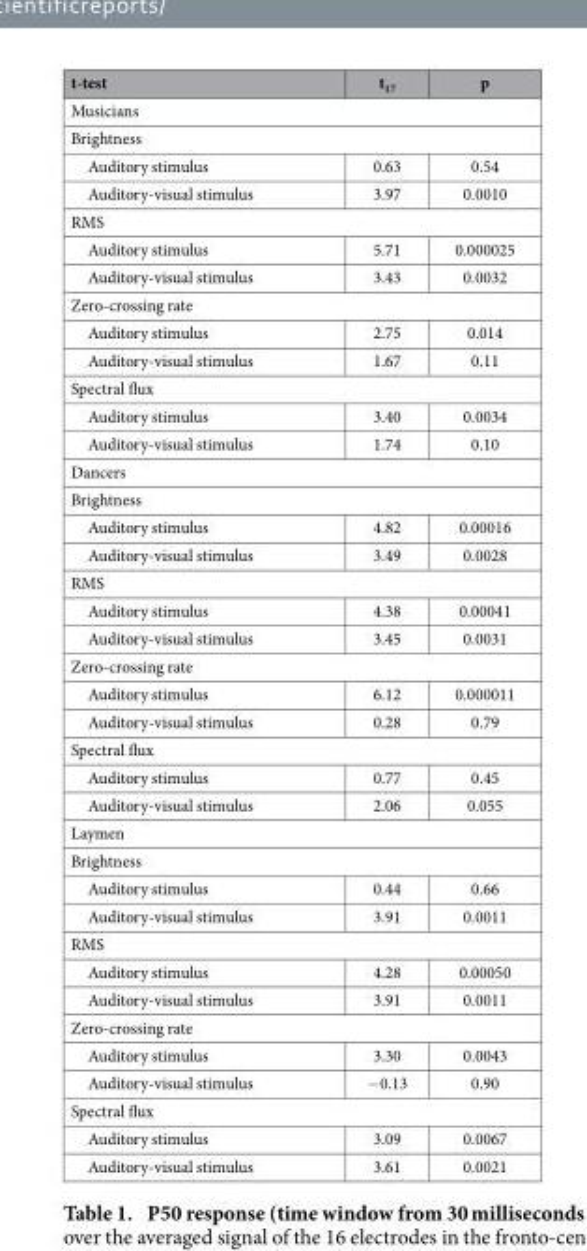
<table><thead><tr><td>t-test</td><td>t<sub>17</sub></td><td>p</td></tr></thead><tbody><tr><td colspan="3">Musicians</td></tr><tr><td colspan="3">Brightness</td></tr><tr><td>Auditory stimulus</td><td>0.63</td><td>0.54</td></tr><tr><td>Auditory-visual stimulus</td><td>3.97</td><td>0.0010</td></tr><tr><td colspan="3">RMS</td></tr><tr><td>Auditory stimulus</td><td>5.71</td><td>0.000025</td></tr><tr><td>Auditory-visual stimulus</td><td>3.43</td><td>0.0032</td></tr><tr><td colspan="3">Zero-crossing rate</td></tr><tr><td>Auditory stimulus</td><td>2.75</td><td>0.014</td></tr><tr><td>Auditory-visual stimulus</td><td>1.67</td><td>0.11</td></tr><tr><td colspan="3">Spectral flux</td></tr><tr><td>Auditory stimulus</td><td>3.40</td><td>0.0034</td></tr><tr><td>Auditory-visual stimulus</td><td>1.74</td><td>0.10</td></tr><tr><td colspan="3">Dancers</td></tr><tr><td colspan="3">Brightness</td></tr><tr><td>Auditory stimulus</td><td>4.82</td><td>0.00016</td></tr><tr><td>Auditory-visual stimulus</td><td>3.49</td><td>0.0028</td></tr><tr><td colspan="3">RMS</td></tr><tr><td>Auditory stimulus</td><td>4.38</td><td>0.00041</td></tr><tr><td>Auditory-visual stimulus</td><td>3.45</td><td>0.0031</td></tr><tr><td colspan="3">Zero-crossing rate</td></tr><tr><td>Auditory stimulus</td><td>6.12</td><td>0.000011</td></tr><tr><td>Auditory-visual stimulus</td><td>0.28</td><td>0.79</td></tr><tr><td colspan="3">Spectral flux</td></tr><tr><td>Auditory stimulus</td><td>0.77</td><td>0.45</td></tr><tr><td>Auditory-visual stimulus</td><td>2.06</td><td>0.055</td></tr><tr><td colspan="3">Laymen</td></tr><tr><td colspan="3">Brightness</td></tr><tr><td>Auditory stimulus</td><td>0.44</td><td>0.66</td></tr><tr><td>Auditory-visual stimulus</td><td>3.91</td><td>0.0011</td></tr><tr><td colspan="3">RMS</td></tr><tr><td>Auditory stimulus</td><td>4.28</td><td>0.00050</td></tr><tr><td>Auditory-visual stimulus</td><td>3.91</td><td>0.0011</td></tr><tr><td colspan="3">Zero-crossing rate</td></tr><tr><td>Auditory stimulus</td><td>3.30</td><td>0.0043</td></tr><tr><td>Auditory-visual stimulus</td><td>− 0.13</td><td>0.90</td></tr><tr><td colspan="3">Spectral flux</td></tr><tr><td>Auditory stimulus</td><td>3.09</td><td>0.0067</td></tr><tr><td>Auditory-visual stimulus</td><td>3.61</td><td>0.0021</td></tr></tbody></table>